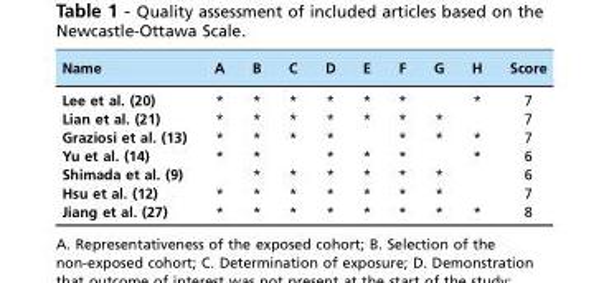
<table><thead><tr><td>Name</td><td>A</td><td>B</td><td>C</td><td>D</td><td>E</td><td>F</td><td>G</td><td>H</td><td>Score</td></tr></thead><tbody><tr><td>Lee et al. (20)</td><td>*</td><td>*</td><td>*</td><td>*</td><td>*</td><td>*</td><td></td><td>*</td><td>7</td></tr><tr><td>Lian et al. (21)</td><td>*</td><td>*</td><td>*</td><td>*</td><td>*</td><td>*</td><td>*</td><td></td><td>7</td></tr><tr><td>Graziosi et al. (13)</td><td>*</td><td>*</td><td>*</td><td>*</td><td></td><td>*</td><td>*</td><td>*</td><td>7</td></tr><tr><td>Yu et al. (14)</td><td>*</td><td>*</td><td></td><td>*</td><td>*</td><td>*</td><td></td><td>*</td><td>6</td></tr><tr><td>Shimada et al. (9)</td><td></td><td>*</td><td>*</td><td>*</td><td>*</td><td>*</td><td>*</td><td></td><td>6</td></tr><tr><td>Hsu et al. (12)</td><td>*</td><td>*</td><td>*</td><td>*</td><td>*</td><td>*</td><td>*</td><td></td><td>7</td></tr><tr><td>Jiang et al. (27)</td><td>*</td><td>*</td><td>*</td><td>*</td><td>*</td><td>*</td><td>*</td><td>*</td><td>8</td></tr></tbody></table>